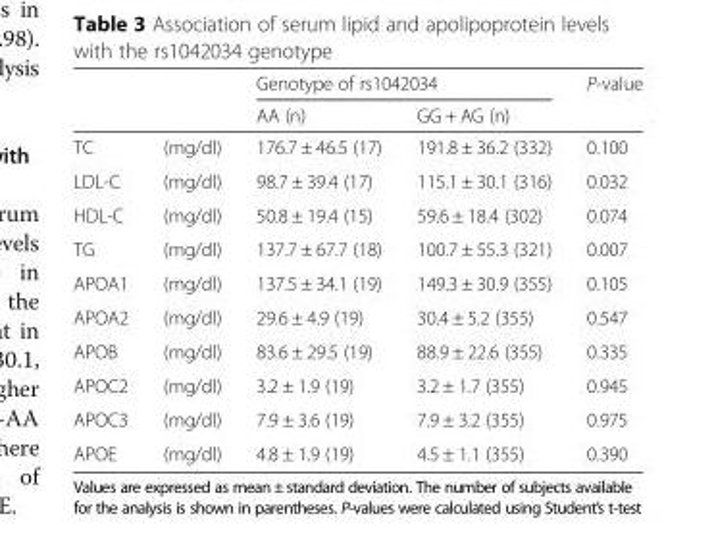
<table><thead><tr><td rowspan="2"></td><td rowspan="2"></td><td colspan="2">Genotype of rs1042034</td><td rowspan="2">P-value</td></tr><tr><td>AA (n)</td><td>GG + AG (n)</td></tr></thead><tbody><tr><td>TC</td><td>(mg/dl)</td><td>176.7 ± 46.5 (17)</td><td>191.8 ± 36.2 (332)</td><td>0.100</td></tr><tr><td>LDL-C</td><td>(mg/dl)</td><td>98.7 ± 39.4 (17)</td><td>115.1 ± 30.1 (316)</td><td>0.032</td></tr><tr><td>HDL-C</td><td>(mg/dl)</td><td>50.8 ± 19.4 (15)</td><td>59.6 ± 18.4 (302)</td><td>0.074</td></tr><tr><td>TG</td><td>(mg/dl)</td><td>137.7 ± 67.7 (18)</td><td>100.7 ± 55.3 (321)</td><td>0.007</td></tr><tr><td>APOA1</td><td>(mg/dl)</td><td>137.5 ± 34.1 (19)</td><td>149.3 ± 30.9 (355)</td><td>0.105</td></tr><tr><td>APOA2</td><td>(mg/dl)</td><td>29.6 ± 4.9 (19)</td><td>30.4 ± 5.2 (355)</td><td>0.547</td></tr><tr><td>APOB</td><td>(mg/dl)</td><td>83.6 ± 29.5 (19)</td><td>88.9 ± 22.6 (355)</td><td>0.335</td></tr><tr><td>APOC2</td><td>(mg/dl)</td><td>3.2 ± 1.9 (19)</td><td>3.2 ± 1.7 (355)</td><td>0.945</td></tr><tr><td>APOC3</td><td>(mg/dl)</td><td>7.9 ± 3.6 (19)</td><td>7.9 ± 3.2 (355)</td><td>0.975</td></tr><tr><td>APOE</td><td>(mg/dl)</td><td>4.8 ± 1.9 (19)</td><td>4.5 ± 1.1 (355)</td><td>0.390</td></tr></tbody></table>